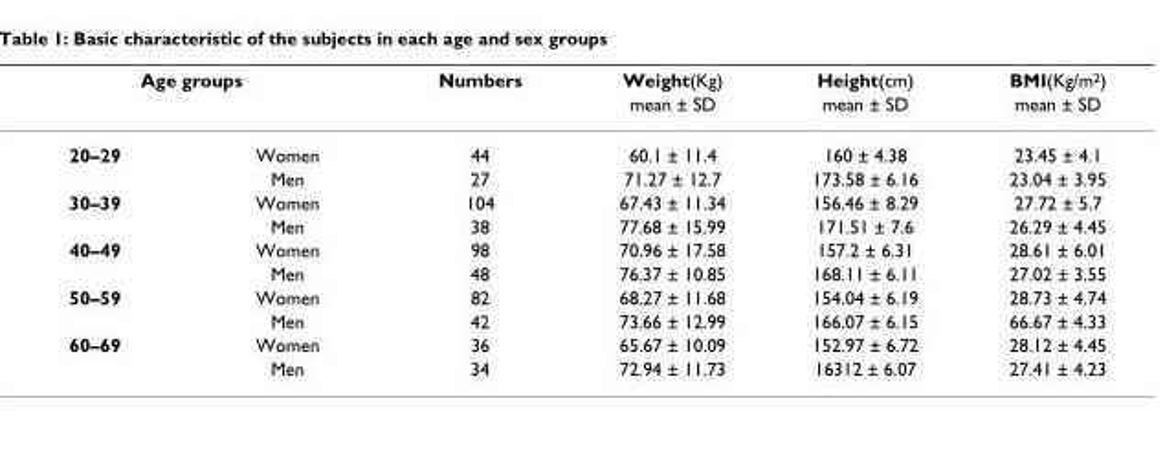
<table><thead><tr><td colspan="2">Age groups</td><td rowspan="2">Numbers</td><td rowspan="2">Weight(Kg) mean ± SD</td><td rowspan="2">Height(cm) mean ± SD</td><td rowspan="2">BMI(Kg/m<sup>2</sup>) mean ± SD</td></tr><tr><td></td><td></td></tr></thead><tbody><tr><td rowspan="2">20–29</td><td>Women</td><td>44</td><td>60.1 ± 11.4</td><td>160 ± 4.38</td><td>23.45 ± 4.1</td></tr><tr><td>Men</td><td>27</td><td>71.27 ± 12.7</td><td>173.58 ± 6.16</td><td>23.04 ± 3.95</td></tr><tr><td rowspan="2">30–39</td><td>Women</td><td>104</td><td>67.43 ± 11.34</td><td>156.46 ± 8.29</td><td>27.72 ± 5.7</td></tr><tr><td>Men</td><td>38</td><td>77.68 ± 15.99</td><td>171.51 ± 7.6</td><td>26.29 ± 4.45</td></tr><tr><td rowspan="2">40–49</td><td>Women</td><td>98</td><td>70.96 ± 17.58</td><td>157.2 ± 6.31</td><td>28.61 ± 6.01</td></tr><tr><td>Men</td><td>48</td><td>76.37 ± 10.85</td><td>168.11 ± 6.11</td><td>27.02 ± 3.55</td></tr><tr><td rowspan="2">50–59</td><td>Women</td><td>82</td><td>68.27 ± 11.68</td><td>154.04 ± 6.19</td><td>28.73 ± 4.74</td></tr><tr><td>Men</td><td>42</td><td>73.66 ± 12.99</td><td>166.07 ± 6.15</td><td>66.67 ± 4.33</td></tr><tr><td rowspan="2">60–69</td><td>Women</td><td>36</td><td>65.67 ± 10.09</td><td>152.97 ± 6.72</td><td>28.12 ± 4.45</td></tr><tr><td>Men</td><td>34</td><td>72.94 ± 11.73</td><td>16312 ± 6.07</td><td>27.41 ± 4.23</td></tr></tbody></table>